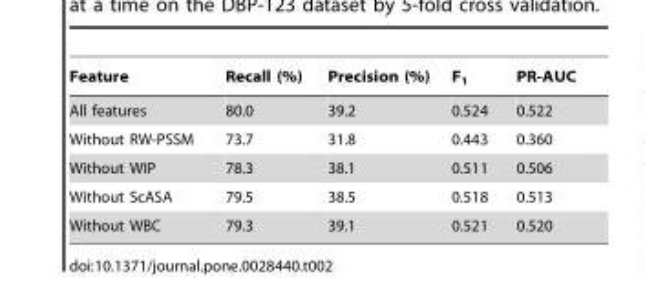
<table><thead><tr><td>Feature</td><td>Recall (%)</td><td>Precision (%)</td><td>F<sub>1</sub></td><td>PR-AUC</td></tr></thead><tbody><tr><td>All features</td><td>80.0</td><td>39.2</td><td>0.524</td><td>0.522</td></tr><tr><td>Without RW-PSSM</td><td>73.7</td><td>31.8</td><td>0.443</td><td>0.360</td></tr><tr><td>Without WIP</td><td>78.3</td><td>38.1</td><td>0.511</td><td>0.506</td></tr><tr><td>Without ScASA</td><td>79.5</td><td>38.5</td><td>0.518</td><td>0.513</td></tr><tr><td>Without WBC</td><td>79.3</td><td>39.1</td><td>0.521</td><td>0.520</td></tr></tbody></table>